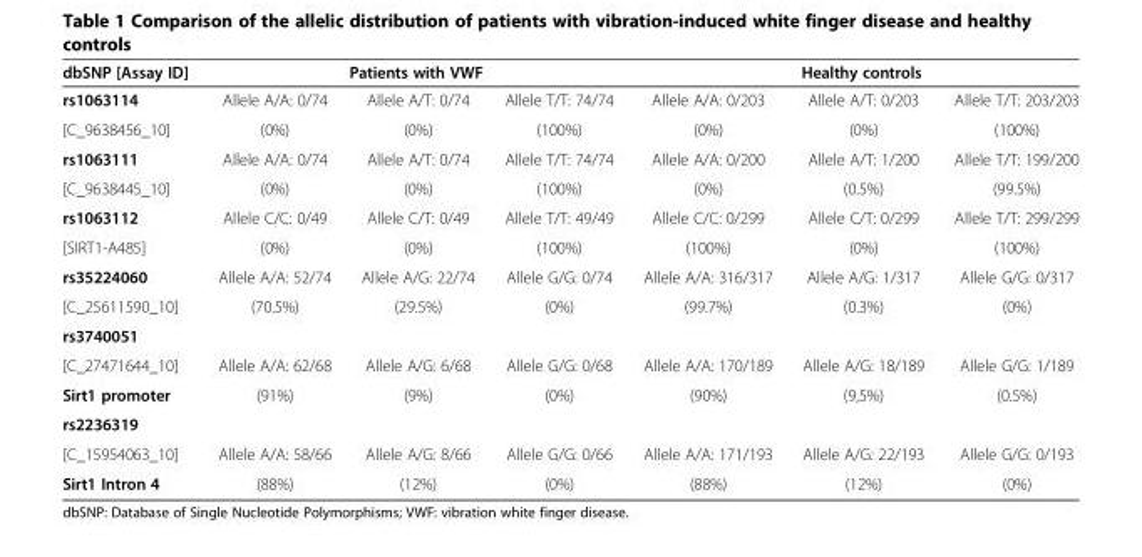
<table><thead><tr><td rowspan="2">dbSNP [Assay ID] rs1063114</td><td colspan="3">Patients with VWF</td><td colspan="3">Healthy controls</td></tr><tr><td>Allele A/A: 0/74</td><td>Allele A/T: 0/74</td><td>Allele T/T: 74/74</td><td>Allele A/A: 0/203</td><td>Allele A/T: 0/203</td><td>Allele T/T: 203/203</td></tr></thead><tbody><tr><td>[C_9638456_10]</td><td>(0%)</td><td>(0%)</td><td>(100%)</td><td>(0%)</td><td>(0%)</td><td>(100%)</td></tr><tr><td>rs1063111</td><td>Allele A/A: 0/74</td><td>Allele A/T: 0/74</td><td>Allele T/T: 74/74</td><td>Allele A/A: 0/200</td><td>Allele A/T: 1/200</td><td>Allele T/T: 199/200</td></tr><tr><td>[C_9638445_10]</td><td>(0%)</td><td>(0%)</td><td>(100%)</td><td>(0%)</td><td>(0.5%)</td><td>(99.5%)</td></tr><tr><td>rs1063112</td><td>Allele C/C: 0/49</td><td>Allele C/T: 0/49</td><td>Allele T/T: 49/49</td><td>Allele C/C: 0/299</td><td>Allele C/T: 0/299</td><td>Allele T/T: 299/299</td></tr><tr><td>[SIRT1-A485]</td><td>(0%)</td><td>(0%)</td><td>(100%)</td><td>(100%)</td><td>(0%)</td><td>(100%)</td></tr><tr><td>rs35224060</td><td>Allele A/A: 52/74</td><td>Allele A/G: 22/74</td><td>Allele G/G: 0/74</td><td>Allele A/A: 316/317</td><td>Allele A/G: 1/317</td><td>Allele G/G: 0/317</td></tr><tr><td>[C_25611590_10]</td><td>(70.5%)</td><td>(29.5%)</td><td>(0%)</td><td>(99.7%)</td><td>(0.3%)</td><td>(0%)</td></tr><tr><td colspan="7">rs3740051</td></tr><tr><td>[C_27471644_10]</td><td>Allele A/A: 62/68</td><td>Allele A/G: 6/68</td><td>Allele G/G: 0/68</td><td>Allele A/A: 170/189</td><td>Allele A/G: 18/189</td><td>Allele G/G: 1/189</td></tr><tr><td>Sirt1 promoter</td><td>(91%)</td><td>(9%)</td><td>(0%)</td><td>(90%)</td><td>(9,5%)</td><td>(0.5%)</td></tr><tr><td colspan="7">rs2236319</td></tr><tr><td>[C_15954063_10]</td><td>Allele A/A: 58/66</td><td>Allele A/G: 8/66</td><td>Allele G/G: 0/66</td><td>Allele A/A: 171/193</td><td>Allele A/G: 22/193</td><td>Allele G/G: 0/193</td></tr><tr><td>Sirt1 Intron 4</td><td>(88%)</td><td>(12%)</td><td>(0%)</td><td>(88%)</td><td>(12%)</td><td>(0%)</td></tr></tbody></table>